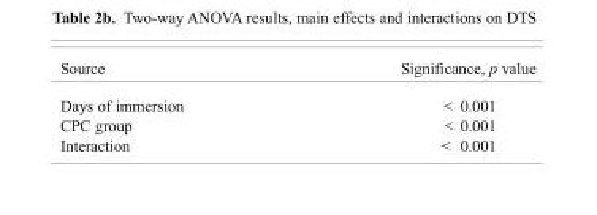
<table><thead><tr><td>Source</td><td>Significance, p value</td></tr></thead><tbody><tr><td>Days of immersion</td><td>&lt; 0.001</td></tr><tr><td>CPC group</td><td>&lt; 0.001</td></tr><tr><td>Interaction</td><td>&lt; 0.001</td></tr></tbody></table>